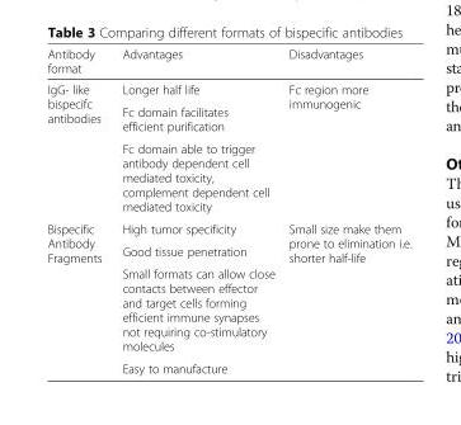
<table><thead><tr><td>Antibody format</td><td>Advantages</td><td>Disadvantages</td></tr></thead><tbody><tr><td rowspan="3">IgG- like bispecifc antibodies</td><td>Longer half life</td><td rowspan="3">Fc region more immunogenic</td></tr><tr><td>Fc domain facilitates efficient purification</td></tr><tr><td>Fc domain able to trigger antibody dependent cell mediated toxicity, complement dependent cell mediated toxicity</td></tr><tr><td rowspan="4">Bispecific Antibody Fragments</td><td>High tumor specificity</td><td rowspan="4">Small size make them prone to elimination i.e. shorter half-life</td></tr><tr><td>Good tissue penetration</td></tr><tr><td>Small formats can allow close contacts between effector and target cells forming efficient immune synapses not requiring co-stimulatory molecules</td></tr><tr><td>Easy to manufacture</td></tr></tbody></table>